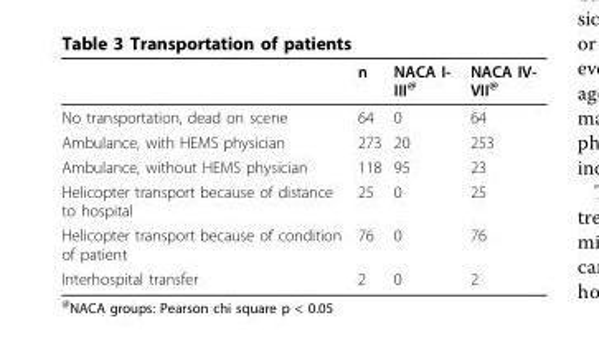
<table><thead><tr><td></td><td>n</td><td>NACA I- III<sup>@</sup></td><td>NACA IV- VII<sup>@</sup></td></tr></thead><tbody><tr><td>No transportation, dead on scene</td><td>64</td><td>0</td><td>64</td></tr><tr><td>Ambulance, with HEMS physician</td><td>273</td><td>20</td><td>253</td></tr><tr><td>Ambulance, without HEMS physician</td><td>118</td><td>95</td><td>23</td></tr><tr><td>Helicopter transport because of distance to hospital</td><td>25</td><td>0</td><td>25</td></tr><tr><td>Helicopter transport because of condition of patient</td><td>76</td><td>0</td><td>76</td></tr><tr><td>Interhospital transfer</td><td>2</td><td>0</td><td>2</td></tr></tbody></table>